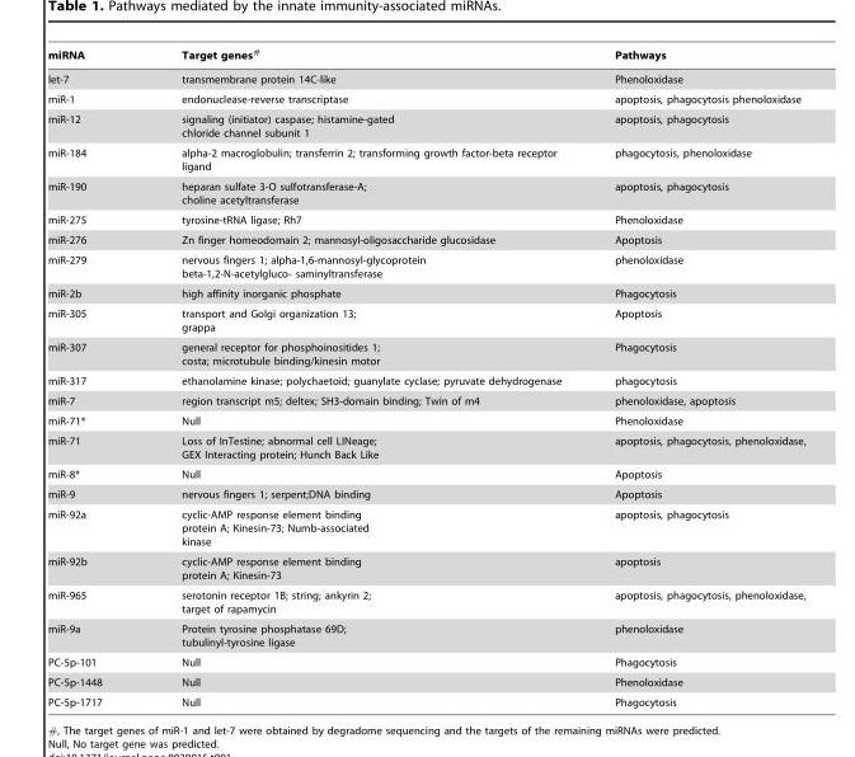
<table><thead><tr><td>miRNA</td><td>Target genes<sup>#</sup></td><td>Pathways</td></tr></thead><tbody><tr><td>let-7</td><td>transmembrane protein 14C-like</td><td>Phenoloxidase</td></tr><tr><td>miR-1</td><td>endonuclease-reverse transcriptase</td><td>apoptosis, phagocytosis phenoloxidase</td></tr><tr><td>miR-12</td><td>signaling (initiator) caspase; histamine-gated chloride channel subunit 1</td><td>apoptosis, phagocytosis</td></tr><tr><td>miR-184</td><td>alpha-2 macroglobulin; transferrin 2; transforming growth factor-beta receptor ligand</td><td>phagocytosis, phenoloxidase</td></tr><tr><td>miR-190</td><td>heparan sulfate 3-O sulfotransferase-A; choline acetyltransferase</td><td>apoptosis, phagocytosis</td></tr><tr><td>miR-275</td><td>tyrosine-tRNA ligase; Rh7</td><td>Phenoloxidase</td></tr><tr><td>miR-276</td><td>Zn finger homeodomain 2; mannosyl-oligosaccharide glucosidase</td><td>Apoptosis</td></tr><tr><td>miR-279</td><td>nervous fingers 1; alpha-1,6-mannosyl-glycoprotein beta-1,2-N-acetylgluco- saminyltransferase</td><td>phenoloxidase</td></tr><tr><td>miR-2b</td><td>high affinity inorganic phosphate</td><td>Phagocytosis</td></tr><tr><td>miR-305</td><td>transport and Golgi organization 13; grappa</td><td>Apoptosis</td></tr><tr><td>miR-307</td><td>general receptor for phosphoinositides 1; costa; microtubule binding/kinesin motor</td><td>Phagocytosis</td></tr><tr><td>miR-317</td><td>ethanolamine kinase; polychaetoid; guanylate cyclase; pyruvate dehydrogenase</td><td>phagocytosis</td></tr><tr><td>miR-7</td><td>region transcript m5; deltex; SH3-domain binding; Twin of m4</td><td>phenoloxidase, apoptosis</td></tr><tr><td>miR-71*</td><td>Null</td><td>Phenoloxidase</td></tr><tr><td>miR-71</td><td>Loss of InTestine; abnormal cell LINeage; GEX Interacting protein; Hunch Back Like</td><td>apoptosis, phagocytosis, phenoloxidase,</td></tr><tr><td>miR-8*</td><td>Null</td><td>Apoptosis</td></tr><tr><td>miR-9</td><td>nervous fingers 1; serpent;DNA binding</td><td>Apoptosis</td></tr><tr><td>miR-92a</td><td>cyclic-AMP response element binding protein A; Kinesin-73; Numb-associated kinase</td><td>apoptosis, phagocytosis</td></tr><tr><td>miR-92b</td><td>cyclic-AMP response element binding protein A; Kinesin-73</td><td>apoptosis</td></tr><tr><td>miR-965</td><td>serotonin receptor 1B; string; ankyrin 2; target of rapamycin</td><td>apoptosis, phagocytosis, phenoloxidase,</td></tr><tr><td>miR-9a</td><td>Protein tyrosine phosphatase 69D; tubulinyl-tyrosine ligase</td><td>phenoloxidase</td></tr><tr><td>PC-5p-101</td><td>Null</td><td>Phagocytosis</td></tr><tr><td>PC-5p-1448</td><td>Null</td><td>Phenoloxidase</td></tr><tr><td>PC-5p-1717</td><td>Null</td><td>Phagocytosis</td></tr></tbody></table>